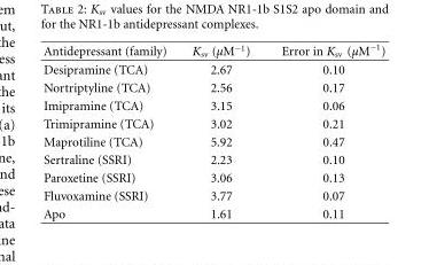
<table><thead><tr><td>Antidepressant (family)</td><td>K<sub>sv</sub> (μM<sup>−1</sup>)</td><td>Error in K<sub>sv</sub> (μM<sup>−1</sup>)</td></tr></thead><tbody><tr><td>Desipramine (TCA)</td><td>2.67</td><td>0.10</td></tr><tr><td>Nortriptyline (TCA)</td><td>2.56</td><td>0.17</td></tr><tr><td>Imipramine (TCA)</td><td>3.15</td><td>0.06</td></tr><tr><td>Trimipramine (TCA)</td><td>3.02</td><td>0.21</td></tr><tr><td>Maprotiline (TCA)</td><td>5.92</td><td>0.47</td></tr><tr><td>Sertraline (SSRI)</td><td>2.23</td><td>0.10</td></tr><tr><td>Paroxetine (SSRI)</td><td>3.06</td><td>0.13</td></tr><tr><td>Fluvoxamine (SSRI)</td><td>3.77</td><td>0.07</td></tr><tr><td>Apo</td><td>1.61</td><td>0.11</td></tr></tbody></table>